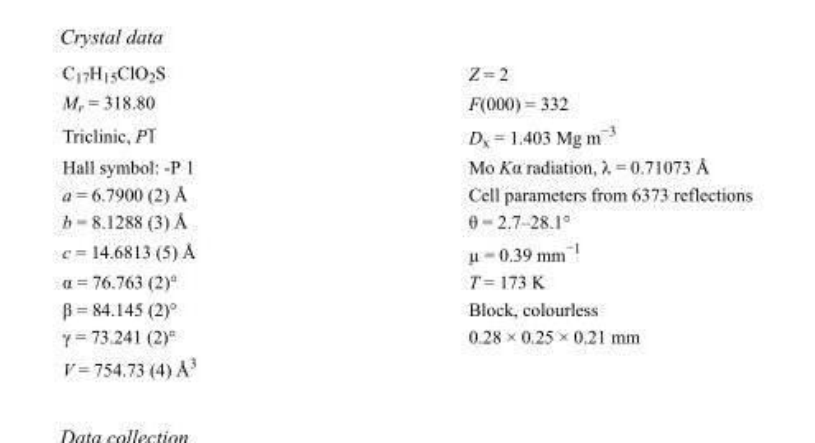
<table><tbody><tr><td>C<sub>17</sub>H<sub>15</sub>ClO<sub>2</sub>S</td><td>Z = 2</td></tr><tr><td>M<sub>r</sub> = 318.80</td><td>F(000) = 332</td></tr><tr><td>Triclinic, P1</td><td>D<sub>x</sub> = 1.403 Mg m<sup>−3</sup></td></tr><tr><td>Hall symbol: -P 1</td><td>Mo Kα radiation, λ = 0.71073 Å</td></tr><tr><td>a = 6.7900 (2) Å</td><td>Cell parameters from 6373 reflections</td></tr><tr><td>b = 8.1288 (3) Å</td><td>θ = 2.7–28.1°</td></tr><tr><td>c = 14.6813 (5) Å</td><td>µ = 0.39 mm<sup>−1</sup></td></tr><tr><td>α = 76.763 (2)°</td><td>T = 173 K</td></tr><tr><td>β = 84.145 (2)°</td><td>Block, colourless</td></tr><tr><td>γ = 73.241 (2)°</td><td>0.28 × 0.25 × 0.21 mm</td></tr><tr><td>V = 754.73 (4) Å<sup>3</sup></td><td></td></tr></tbody></table>